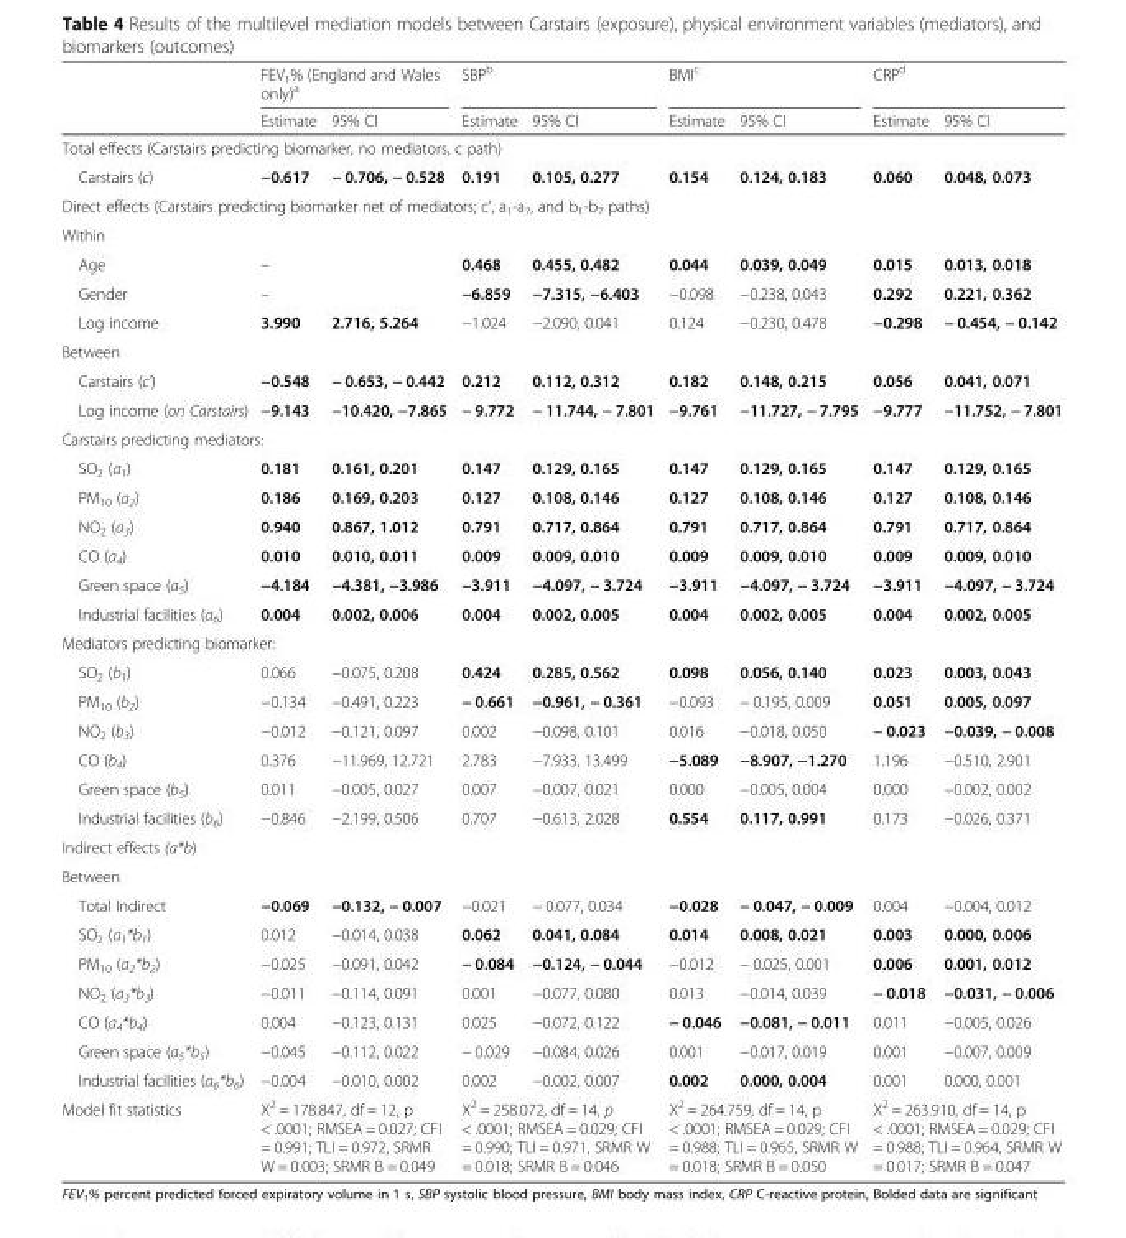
<table><thead><tr><td rowspan="2"></td><td colspan="2">FEV<sub>1</sub>% (England and Wales only)<sup>a</sup></td><td colspan="2">SBP<sup>b</sup></td><td colspan="2">BMI<sup>c</sup></td><td colspan="2">CRP<sup>d</sup></td></tr><tr><td>Estimate</td><td>95% CI</td><td>Estimate</td><td>95% CI</td><td>Estimate</td><td>95% CI</td><td>Estimate</td><td>95% CI</td></tr></thead><tbody><tr><td colspan="9">Total effects (Carstairs predicting biomarker, no mediators, c path)</td></tr><tr><td>Carstairs (c)</td><td>−0.617</td><td>− 0.706, − 0.528</td><td>0.191</td><td>0.105, 0.277</td><td>0.154</td><td>0.124, 0.183</td><td>0.060</td><td>0.048, 0.073</td></tr><tr><td colspan="9">Direct effects (Carstairs predicting biomarker net of mediators; c’, a<sub>1</sub>-a<sub>7</sub>, and b<sub>1</sub>-b<sub>7</sub> paths)</td></tr><tr><td colspan="9">Within</td></tr><tr><td>Age</td><td>–</td><td></td><td>0.468</td><td>0.455, 0.482</td><td>0.044</td><td>0.039, 0.049</td><td>0.015</td><td>0.013, 0.018</td></tr><tr><td>Gender</td><td>–</td><td></td><td>−6.859</td><td>−7.315, −6.403</td><td>−0.098</td><td>−0.238, 0.043</td><td>0.292</td><td>0.221, 0.362</td></tr><tr><td>Log income</td><td>3.990</td><td>2.716, 5.264</td><td>−1.024</td><td>−2.090, 0.041</td><td>0.124</td><td>−0.230, 0.478</td><td>−0.298</td><td>− 0.454, − 0.142</td></tr><tr><td colspan="9">Between</td></tr><tr><td>Carstairs (c’)</td><td>−0.548</td><td>− 0.653, − 0.442</td><td>0.212</td><td>0.112, 0.312</td><td>0.182</td><td>0.148, 0.215</td><td>0.056</td><td>0.041, 0.071</td></tr><tr><td>Log income (on Carstairs)</td><td>−9.143</td><td>−10.420, −7.865</td><td>− 9.772</td><td>− 11.744, − 7.801</td><td>−9.761</td><td>−11.727, − 7.795</td><td>−9.777</td><td>−11.752, − 7.801</td></tr><tr><td colspan="9">Carstairs predicting mediators:</td></tr><tr><td>SO<sub>2</sub> (a<sub>1</sub>)</td><td>0.181</td><td>0.161, 0.201</td><td>0.147</td><td>0.129, 0.165</td><td>0.147</td><td>0.129, 0.165</td><td>0.147</td><td>0.129, 0.165</td></tr><tr><td>PM<sub>10</sub> (a<sub>2</sub>)</td><td>0.186</td><td>0.169, 0.203</td><td>0.127</td><td>0.108, 0.146</td><td>0.127</td><td>0.108, 0.146</td><td>0.127</td><td>0.108, 0.146</td></tr><tr><td>NO<sub>2</sub> (a<sub>3</sub>)</td><td>0.940</td><td>0.867, 1.012</td><td>0.791</td><td>0.717, 0.864</td><td>0.791</td><td>0.717, 0.864</td><td>0.791</td><td>0.717, 0.864</td></tr><tr><td>CO (a<sub>4</sub>)</td><td>0.010</td><td>0.010, 0.011</td><td>0.009</td><td>0.009, 0.010</td><td>0.009</td><td>0.009, 0.010</td><td>0.009</td><td>0.009, 0.010</td></tr><tr><td>Green space (a<sub>5</sub>)</td><td>−4.184</td><td>−4.381, −3.986</td><td>−3.911</td><td>−4.097, − 3.724</td><td>−3.911</td><td>−4.097, − 3.724</td><td>−3.911</td><td>−4.097, − 3.724</td></tr><tr><td>Industrial facilities (a<sub>6</sub>)</td><td>0.004</td><td>0.002, 0.006</td><td>0.004</td><td>0.002, 0.005</td><td>0.004</td><td>0.002, 0.005</td><td>0.004</td><td>0.002, 0.005</td></tr><tr><td colspan="9">Mediators predicting biomarker:</td></tr><tr><td>SO<sub>2</sub> (b<sub>1</sub>)</td><td>0.066</td><td>−0.075, 0.208</td><td>0.424</td><td>0.285, 0.562</td><td>0.098</td><td>0.056, 0.140</td><td>0.023</td><td>0.003, 0.043</td></tr><tr><td>PM<sub>10</sub> (b<sub>2</sub>)</td><td>−0.134</td><td>−0.491, 0.223</td><td>− 0.661</td><td>−0.961, − 0.361</td><td>−0.093</td><td>− 0.195, 0.009</td><td>0.051</td><td>0.005, 0.097</td></tr><tr><td>NO<sub>2</sub> (b<sub>3</sub>)</td><td>−0.012</td><td>−0.121, 0.097</td><td>0.002</td><td>−0.098, 0.101</td><td>0.016</td><td>−0.018, 0.050</td><td>− 0.023</td><td>−0.039, − 0.008</td></tr><tr><td>CO (b<sub>4</sub>)</td><td>0.376</td><td>−11.969, 12.721</td><td>2.783</td><td>−7.933, 13.499</td><td>−5.089</td><td>−8.907, −1.270</td><td>1.196</td><td>−0.510, 2.901</td></tr><tr><td>Green space (b<sub>5</sub>)</td><td>0.011</td><td>−0.005, 0.027</td><td>0.007</td><td>−0.007, 0.021</td><td>0.000</td><td>−0.005, 0.004</td><td>0.000</td><td>−0.002, 0.002</td></tr><tr><td>Industrial facilities (b<sub>6</sub>)</td><td>−0.846</td><td>−2.199, 0.506</td><td>0.707</td><td>−0.613, 2.028</td><td>0.554</td><td>0.117, 0.991</td><td>0.173</td><td>−0.026, 0.371</td></tr><tr><td colspan="9">Indirect effects (a*b)</td></tr><tr><td colspan="9">Between</td></tr><tr><td>Total Indirect</td><td>−0.069</td><td>−0.132, − 0.007</td><td>−0.021</td><td>− 0.077, 0.034</td><td>−0.028</td><td>− 0.047, − 0.009</td><td>0.004</td><td>−0.004, 0.012</td></tr><tr><td>SO<sub>2</sub> (a<sub>1</sub>*b<sub>1</sub>)</td><td>0.012</td><td>−0.014, 0.038</td><td>0.062</td><td>0.041, 0.084</td><td>0.014</td><td>0.008, 0.021</td><td>0.003</td><td>0.000, 0.006</td></tr><tr><td>PM<sub>10</sub> (a<sub>2</sub>*b<sub>2</sub>)</td><td>−0.025</td><td>−0.091, 0.042</td><td>− 0.084</td><td>−0.124, − 0.044</td><td>−0.012</td><td>− 0.025, 0.001</td><td>0.006</td><td>0.001, 0.012</td></tr><tr><td>NO<sub>2</sub> (a<sub>3</sub>*b<sub>3</sub>)</td><td>−0.011</td><td>−0.114, 0.091</td><td>0.001</td><td>−0.077, 0.080</td><td>0.013</td><td>−0.014, 0.039</td><td>− 0.018</td><td>−0.031, − 0.006</td></tr><tr><td>CO (a<sub>4</sub>*b<sub>4</sub>)</td><td>0.004</td><td>−0.123, 0.131</td><td>0.025</td><td>−0.072, 0.122</td><td>− 0.046</td><td>−0.081, − 0.011</td><td>0.011</td><td>−0.005, 0.026</td></tr><tr><td>Green space (a<sub>5</sub>*b<sub>5</sub>)</td><td>−0.045</td><td>−0.112, 0.022</td><td>− 0.029</td><td>−0.084, 0.026</td><td>0.001</td><td>−0.017, 0.019</td><td>0.001</td><td>−0.007, 0.009</td></tr><tr><td>Industrial facilities (a<sub>6</sub>*b<sub>6</sub>)</td><td>−0.004</td><td>−0.010, 0.002</td><td>0.002</td><td>−0.002, 0.007</td><td>0.002</td><td>0.000, 0.004</td><td>0.001</td><td>0.000, 0.001</td></tr><tr><td>Model fit statistics</td><td colspan="2">X<sup>2</sup> = 178.847, df = 12, p &lt; .0001; RMSEA = 0.027; CFI = 0.991; TLI = 0.972, SRMR W = 0.003; SRMR B = 0.049</td><td colspan="2">X<sup>2</sup> = 258.072, df = 14, p &lt; .0001; RMSEA = 0.029; CFI = 0.990; TLI = 0.971, SRMR W = 0.018; SRMR B = 0.046</td><td colspan="2">X<sup>2</sup> = 264.759, df = 14, p &lt; .0001; RMSEA = 0.029; CFI = 0.988; TLI = 0.965, SRMR W = 0.018; SRMR B = 0.050</td><td colspan="2">X<sup>2</sup> = 263.910, df = 14, p &lt; .0001; RMSEA = 0.029; CFI = 0.988; TLI = 0.964, SRMR W = 0.017; SRMR B = 0.047</td></tr></tbody></table>